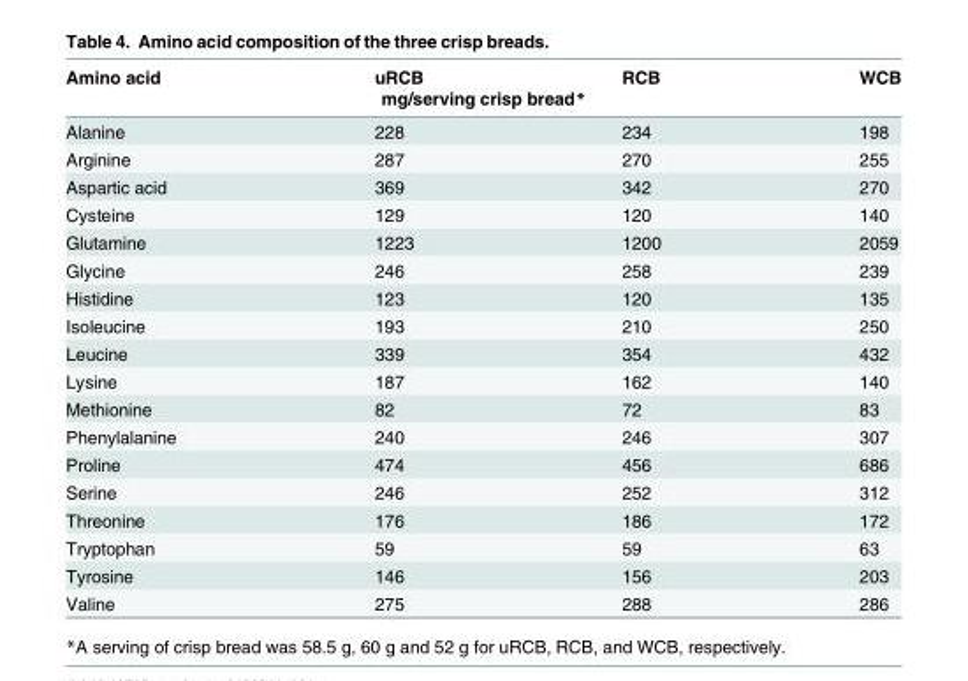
<table><thead><tr><td>Amino acid</td><td>uRCB</td><td>RCB</td><td>WCB</td></tr><tr><td colspan="4">mg/serving crisp bread*</td></tr></thead><tbody><tr><td>Alanine</td><td>228</td><td>234</td><td>198</td></tr><tr><td>Arginine</td><td>287</td><td>270</td><td>255</td></tr><tr><td>Aspartic acid</td><td>369</td><td>342</td><td>270</td></tr><tr><td>Cysteine</td><td>129</td><td>120</td><td>140</td></tr><tr><td>Glutamine</td><td>1223</td><td>1200</td><td>2059</td></tr><tr><td>Glycine</td><td>246</td><td>258</td><td>239</td></tr><tr><td>Histidine</td><td>123</td><td>120</td><td>135</td></tr><tr><td>Isoleucine</td><td>193</td><td>210</td><td>250</td></tr><tr><td>Leucine</td><td>339</td><td>354</td><td>432</td></tr><tr><td>Lysine</td><td>187</td><td>162</td><td>140</td></tr><tr><td>Methionine</td><td>82</td><td>72</td><td>83</td></tr><tr><td>Phenylalanine</td><td>240</td><td>246</td><td>307</td></tr><tr><td>Proline</td><td>474</td><td>456</td><td>686</td></tr><tr><td>Serine</td><td>246</td><td>252</td><td>312</td></tr><tr><td>Threonine</td><td>176</td><td>186</td><td>172</td></tr><tr><td>Tryptophan</td><td>59</td><td>59</td><td>63</td></tr><tr><td>Tyrosine</td><td>146</td><td>156</td><td>203</td></tr><tr><td>Valine</td><td>275</td><td>288</td><td>286</td></tr></tbody></table>